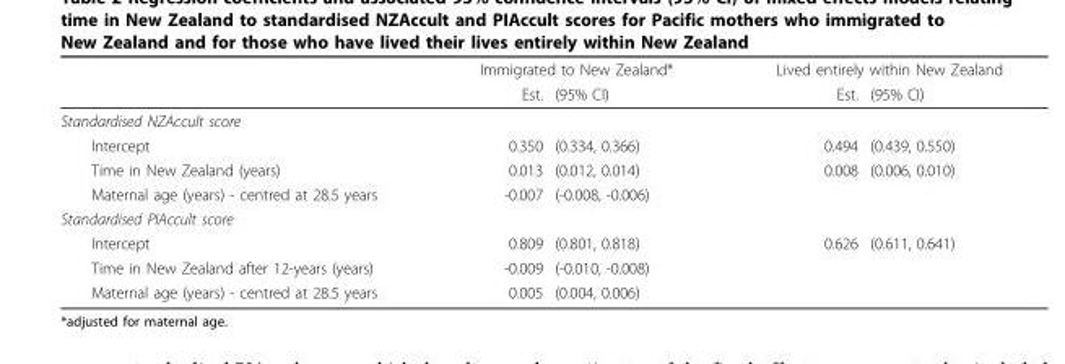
<table><thead><tr><td rowspan="2"></td><td colspan="2">Immigrated to New Zealand*</td><td colspan="2">Lived entirely within New Zealand</td></tr><tr><td>Est.</td><td>(95% CI)</td><td>Est.</td><td>(95% CI)</td></tr></thead><tbody><tr><td colspan="5">Standardised NZAccult score</td></tr><tr><td>Intercept</td><td>0.350</td><td>(0.334, 0.366)</td><td>0.494</td><td>(0.439, 0.550)</td></tr><tr><td>Time in New Zealand (years)</td><td>0.013</td><td>(0.012, 0.014)</td><td>0.008</td><td>(0.006, 0.010)</td></tr><tr><td>Maternal age (years) - centred at 28.5 years</td><td>-0.007</td><td>(-0.008, -0.006)</td><td></td><td></td></tr><tr><td colspan="5">Standardised PIAccult score</td></tr><tr><td>Intercept</td><td>0.809</td><td>(0.801, 0.818)</td><td>0.626</td><td>(0.611, 0.641)</td></tr><tr><td>Time in New Zealand after 12-years (years)</td><td>-0.009</td><td>(-0.010, -0.008)</td><td></td><td></td></tr><tr><td>Maternal age (years) - centred at 28.5 years</td><td>0.005</td><td>(0.004, 0.006)</td><td></td><td></td></tr></tbody></table>